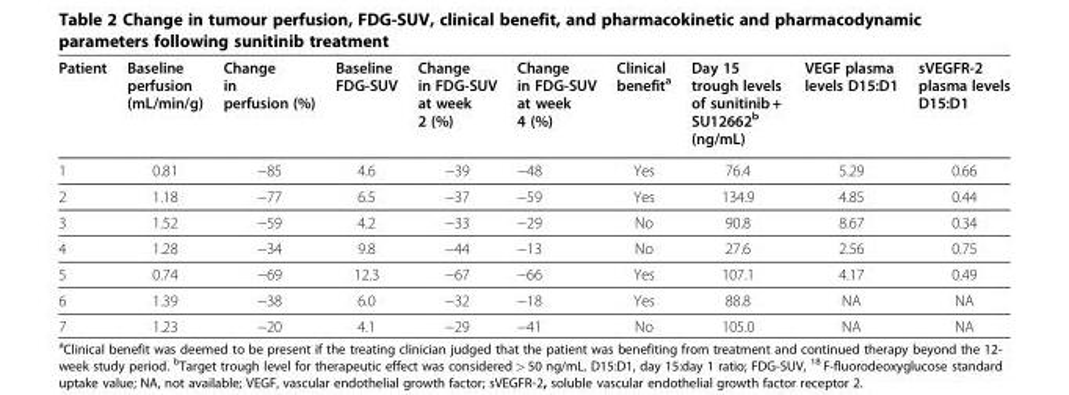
<table><thead><tr><td>Patient</td><td>Baseline perfusion (mL/min/g)</td><td>Change in perfusion (%)</td><td>Baseline FDG-SUV</td><td>Change in FDG-SUV at week 2 (%)</td><td>Change in FDG-SUV at week 4 (%)</td><td>Clinical benefit<sup>a</sup></td><td>Day 15 trough levels of sunitinib + SU12662<sup>b</sup> (ng/mL)</td><td>VEGF plasma levels D15:D1</td><td>sVEGFR-2 plasma levels D15:D1</td></tr></thead><tbody><tr><td>1</td><td>0.81</td><td>−85</td><td>4.6</td><td>−39</td><td>−48</td><td>Yes</td><td>76.4</td><td>5.29</td><td>0.66</td></tr><tr><td>2</td><td>1.18</td><td>−77</td><td>6.5</td><td>−37</td><td>−59</td><td>Yes</td><td>134.9</td><td>4.85</td><td>0.44</td></tr><tr><td>3</td><td>1.52</td><td>−59</td><td>4.2</td><td>−33</td><td>−29</td><td>No</td><td>90.8</td><td>8.67</td><td>0.34</td></tr><tr><td>4</td><td>1.28</td><td>−34</td><td>9.8</td><td>−44</td><td>−13</td><td>No</td><td>27.6</td><td>2.56</td><td>0.75</td></tr><tr><td>5</td><td>0.74</td><td>−69</td><td>12.3</td><td>−67</td><td>−66</td><td>Yes</td><td>107.1</td><td>4.17</td><td>0.49</td></tr><tr><td>6</td><td>1.39</td><td>−38</td><td>6.0</td><td>−32</td><td>−18</td><td>Yes</td><td>88.8</td><td>NA</td><td>NA</td></tr><tr><td>7</td><td>1.23</td><td>−20</td><td>4.1</td><td>−29</td><td>−41</td><td>No</td><td>105.0</td><td>NA</td><td>NA</td></tr></tbody></table>